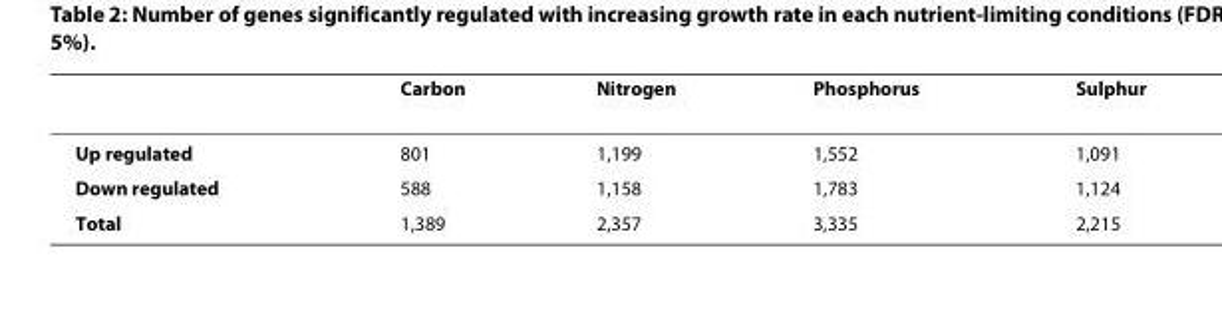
<table><thead><tr><td></td><td>Carbon</td><td>Nitrogen</td><td>Phosphorus</td><td>Sulphur</td></tr></thead><tbody><tr><td>Up regulated</td><td>801</td><td>1,199</td><td>1,552</td><td>1,091</td></tr><tr><td>Down regulated</td><td>588</td><td>1,158</td><td>1,783</td><td>1,124</td></tr><tr><td>Total</td><td>1,389</td><td>2,357</td><td>3,335</td><td>2,215</td></tr></tbody></table>